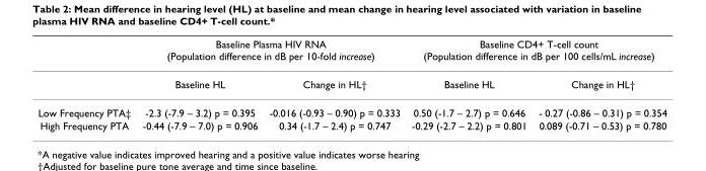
<table><thead><tr><td rowspan="2"></td><td colspan="2">Baseline Plasma HIV RNA (Population difference in dB per 10-fold increase)</td><td colspan="2">Baseline CD4+ T-cell count (Population difference in dB per 100 cells/mL increase)</td></tr><tr><td>Baseline HL</td><td>Change in HL†</td><td>Baseline HL</td><td>Change in HL†</td></tr></thead><tbody><tr><td>Low Frequency PTA‡</td><td>-2.3 (-7.9 – 3.2) p = 0.395</td><td>-0.016 (-0.93 – 0.90) p = 0.333</td><td>0.50 (-1.7 – 2.7) p = 0.646</td><td>- 0.27 (-0.86 – 0.31) p = 0.354</td></tr><tr><td>High Frequency PTA</td><td>-0.44 (-7.9 – 7.0) p = 0.906</td><td>0.34 (-1.7 – 2.4) p = 0.747</td><td>-0.29 (-2.7 – 2.2) p = 0.801</td><td>0.089 (-0.71 – 0.53) p = 0.780</td></tr></tbody></table>